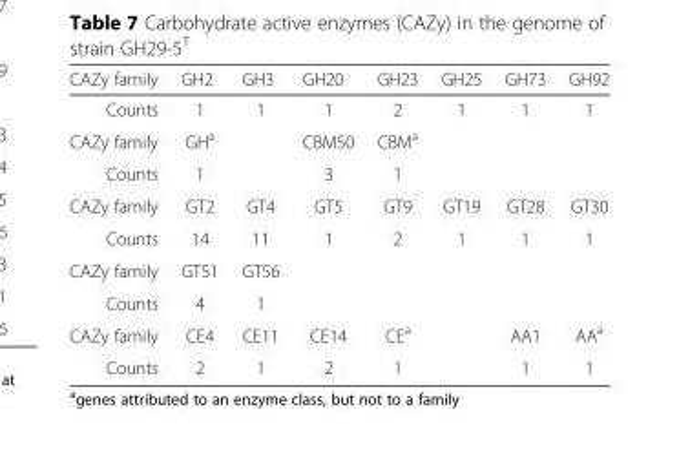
<table><thead><tr><td>CAZy family</td><td>GH2</td><td>GH3</td><td>GH20</td><td>GH23</td><td>GH25</td><td>GH73</td><td>GH92</td></tr></thead><tbody><tr><td>Counts</td><td>1</td><td>1</td><td>1</td><td>2</td><td>1</td><td>1</td><td>1</td></tr><tr><td>CAZy family</td><td>GH<sup>a</sup></td><td></td><td>CBM50</td><td>CBM<sup>a</sup></td><td></td><td></td><td></td></tr><tr><td>Counts</td><td>1</td><td></td><td>3</td><td>1</td><td></td><td></td><td></td></tr><tr><td>CAZy family</td><td>GT2</td><td>GT4</td><td>GT5</td><td>GT9</td><td>GT19</td><td>GT28</td><td>GT30</td></tr><tr><td>Counts</td><td>14</td><td>11</td><td>1</td><td>2</td><td>1</td><td>1</td><td>1</td></tr><tr><td>CAZy family</td><td>GT51</td><td>GT56</td><td></td><td></td><td></td><td></td><td></td></tr><tr><td>Counts</td><td>4</td><td>1</td><td></td><td></td><td></td><td></td><td></td></tr><tr><td>CAZy family</td><td>CE4</td><td>CE11</td><td>CE14</td><td>CE<sup>a</sup></td><td></td><td>AA1</td><td>AA<sup>a</sup></td></tr><tr><td>Counts</td><td>2</td><td>1</td><td>2</td><td>1</td><td></td><td>1</td><td>1</td></tr></tbody></table>